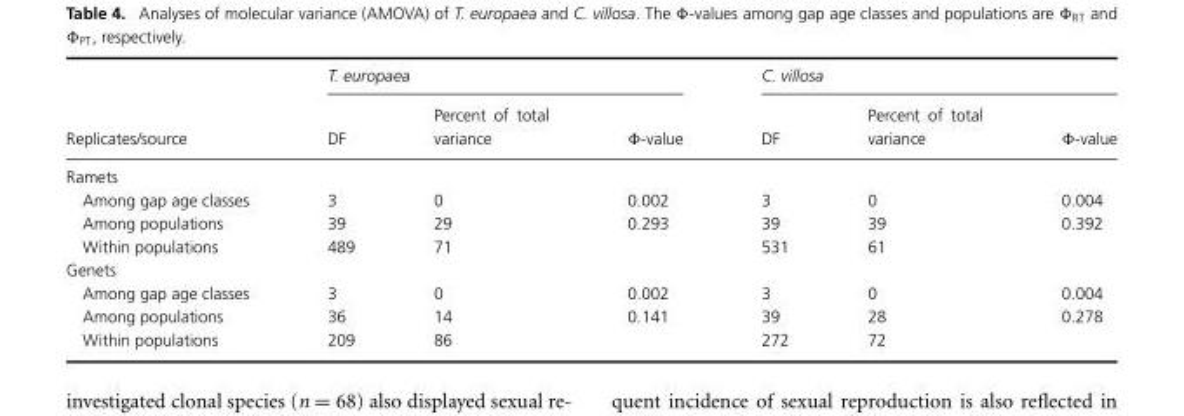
<table><thead><tr><td rowspan="2">Replicates/source</td><td colspan="3">T. europaea</td><td colspan="3">C. villosa</td></tr><tr><td>DF</td><td>Percent of total variance</td><td>Φ-value</td><td>DF</td><td>Percent of total variance</td><td>Φ-value</td></tr></thead><tbody><tr><td colspan="7">Ramets</td></tr><tr><td>Among gap age classes</td><td>3</td><td>0</td><td>0.002</td><td>3</td><td>0</td><td>0.004</td></tr><tr><td>Among populations</td><td>39</td><td>29</td><td>0.293</td><td>39</td><td>39</td><td>0.392</td></tr><tr><td>Within populations</td><td>489</td><td>71</td><td></td><td>531</td><td>61</td><td></td></tr><tr><td colspan="7">Genets</td></tr><tr><td>Among gap age classes</td><td>3</td><td>0</td><td>0.002</td><td>3</td><td>0</td><td>0.004</td></tr><tr><td>Among populations</td><td>36</td><td>14</td><td>0.141</td><td>39</td><td>28</td><td>0.278</td></tr><tr><td>Within populations</td><td>209</td><td>86</td><td></td><td>272</td><td>72</td><td></td></tr></tbody></table>